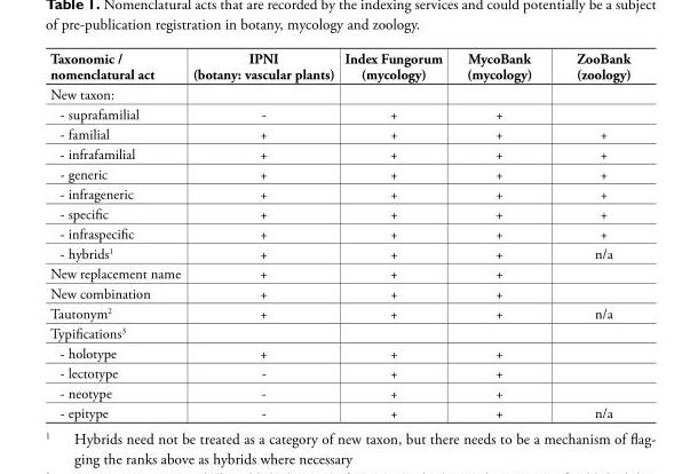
<table><thead><tr><td>Taxonomic / nomenclatural act</td><td>IPNI (botany: vascular plants)</td><td>Index Fungorum (mycology)</td><td>MycoBank (mycology)</td><td>ZooBank (zoology)</td></tr></thead><tbody><tr><td colspan="5">New taxon:</td></tr><tr><td>- suprafamilial</td><td>-</td><td>+</td><td>+</td><td></td></tr><tr><td>- familial</td><td>+</td><td>+</td><td>+</td><td>+</td></tr><tr><td>- infrafamilial</td><td>+</td><td>+</td><td>+</td><td>+</td></tr><tr><td>- generic</td><td>+</td><td>+</td><td>+</td><td>+</td></tr><tr><td>- infrageneric</td><td>+</td><td>+</td><td>+</td><td>+</td></tr><tr><td>- specific</td><td>+</td><td>+</td><td>+</td><td>+</td></tr><tr><td>- infraspecific</td><td>+</td><td>+</td><td>+</td><td>+</td></tr><tr><td>- hybrids<sup>1</sup></td><td>+</td><td>+</td><td>+</td><td>n/a</td></tr><tr><td>New replacement name</td><td>+</td><td>+</td><td>+</td><td></td></tr><tr><td>New combination</td><td>+</td><td>+</td><td>+</td><td></td></tr><tr><td>Tautonym<sup>2</sup></td><td>+</td><td>+</td><td>+</td><td>n/a</td></tr><tr><td colspan="5">Typifications<sup>3</sup></td></tr><tr><td>- holotype</td><td>+</td><td>+</td><td>+</td><td></td></tr><tr><td>- lectotype</td><td>-</td><td>+</td><td>+</td><td></td></tr><tr><td>- neotype</td><td>-</td><td>+</td><td>+</td><td></td></tr><tr><td>- epitype</td><td>-</td><td>+</td><td>+</td><td>n/a</td></tr></tbody></table>